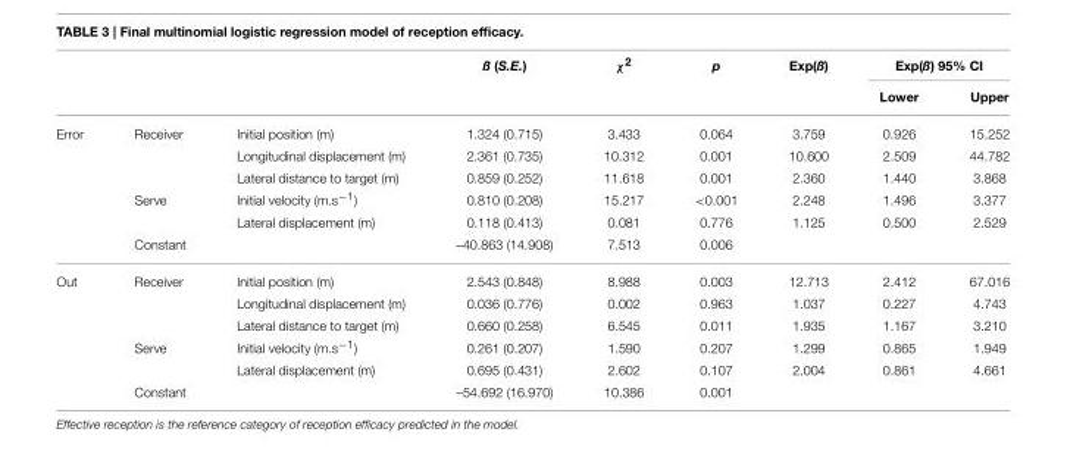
<table><thead><tr><td rowspan="2"></td><td rowspan="2"></td><td rowspan="2"></td><td rowspan="2">ß (S.E.)</td><td rowspan="2">χ<sup>2</sup></td><td rowspan="2">p</td><td rowspan="2">Exp(ß)</td><td colspan="2">Exp(ß) 95% CI</td></tr><tr><td>Lower</td><td>Upper</td></tr></thead><tbody><tr><td rowspan="6">Error</td><td>Receiver</td><td>Initial position (m)</td><td>1.324 (0.715)</td><td>3.433</td><td>0.064</td><td>3.759</td><td>0.926</td><td>15.252</td></tr><tr><td></td><td>Longitudinal displacement (m)</td><td>2.361 (0.735)</td><td>10.312</td><td>0.001</td><td>10.600</td><td>2.509</td><td>44.782</td></tr><tr><td></td><td>Lateral distance to target (m)</td><td>0.859 (0.252)</td><td>11.618</td><td>0.001</td><td>2.360</td><td>1.440</td><td>3.868</td></tr><tr><td>Serve</td><td>Initial velocity (m.s<sup>−1</sup>)</td><td>0.810 (0.208)</td><td>15.217</td><td>&lt;0.001</td><td>2.248</td><td>1.496</td><td>3.377</td></tr><tr><td></td><td>Lateral displacement (m)</td><td>0.118 (0.413)</td><td>0.081</td><td>0.776</td><td>1.125</td><td>0.500</td><td>2.529</td></tr><tr><td>Constant</td><td></td><td>–40.863 (14.908)</td><td>7.513</td><td>0.006</td><td></td><td></td><td></td></tr><tr><td rowspan="6">Out</td><td>Receiver</td><td>Initial position (m)</td><td>2.543 (0.848)</td><td>8.988</td><td>0.003</td><td>12.713</td><td>2.412</td><td>67.016</td></tr><tr><td></td><td>Longitudinal displacement (m)</td><td>0.036 (0.776)</td><td>0.002</td><td>0.963</td><td>1.037</td><td>0.227</td><td>4.743</td></tr><tr><td></td><td>Lateral distance to target (m)</td><td>0.660 (0.258)</td><td>6.545</td><td>0.011</td><td>1.935</td><td>1.167</td><td>3.210</td></tr><tr><td>Serve</td><td>Initial velocity (m.s<sup>−1</sup>)</td><td>0.261 (0.207)</td><td>1.590</td><td>0.207</td><td>1.299</td><td>0.865</td><td>1.949</td></tr><tr><td></td><td>Lateral displacement (m)</td><td>0.695 (0.431)</td><td>2.602</td><td>0.107</td><td>2.004</td><td>0.861</td><td>4.661</td></tr><tr><td>Constant</td><td></td><td>–54.692 (16.970)</td><td>10.386</td><td>0.001</td><td></td><td></td><td></td></tr></tbody></table>